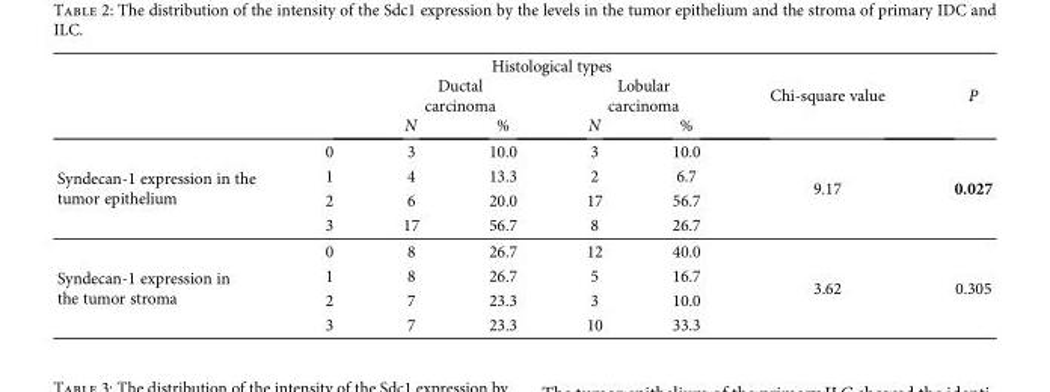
<table><thead><tr><td rowspan="3"></td><td rowspan="3"></td><td colspan="4">Histological types</td><td rowspan="3">Chi-square value</td><td rowspan="3">P</td></tr><tr><td colspan="2">Ductal carcinoma</td><td colspan="2">Lobular carcinoma</td></tr><tr><td>N</td><td>%</td><td>N</td><td>%</td></tr></thead><tbody><tr><td rowspan="4">Syndecan-1 expression in the tumor epithelium</td><td>0</td><td>3</td><td>10.0</td><td>3</td><td>10.0</td><td rowspan="4">9.17</td><td rowspan="4">0.027</td></tr><tr><td>1</td><td>4</td><td>13.3</td><td>2</td><td>6.7</td></tr><tr><td>2</td><td>6</td><td>20.0</td><td>17</td><td>56.7</td></tr><tr><td>3</td><td>17</td><td>56.7</td><td>8</td><td>26.7</td></tr><tr><td rowspan="4">Syndecan-1 expression in the tumor stroma</td><td>0</td><td>8</td><td>26.7</td><td>12</td><td>40.0</td><td rowspan="4">3.62</td><td rowspan="4">0.305</td></tr><tr><td>1</td><td>8</td><td>26.7</td><td>5</td><td>16.7</td></tr><tr><td>2</td><td>7</td><td>23.3</td><td>3</td><td>10.0</td></tr><tr><td>3</td><td>7</td><td>23.3</td><td>10</td><td>33.3</td></tr></tbody></table>